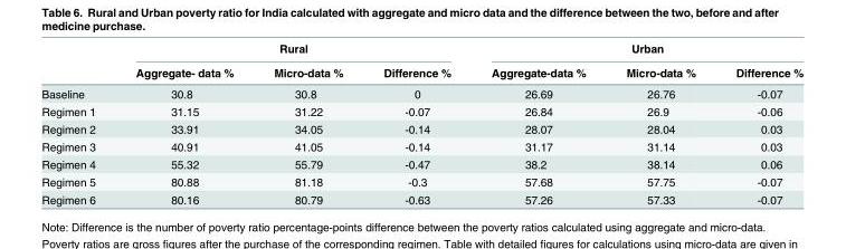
<table><thead><tr><td rowspan="2"></td><td colspan="3">Rural</td><td colspan="3">Urban</td></tr><tr><td>Aggregate- data %</td><td>Micro-data %</td><td>Difference %</td><td>Aggregate-data %</td><td>Micro-data %</td><td>Difference %</td></tr></thead><tbody><tr><td>Baseline</td><td>30.8</td><td>30.8</td><td>0</td><td>26.69</td><td>26.76</td><td>-0.07</td></tr><tr><td>Regimen 1</td><td>31.15</td><td>31.22</td><td>-0.07</td><td>26.84</td><td>26.9</td><td>-0.06</td></tr><tr><td>Regimen 2</td><td>33.91</td><td>34.05</td><td>-0.14</td><td>28.07</td><td>28.04</td><td>0.03</td></tr><tr><td>Regimen 3</td><td>40.91</td><td>41.05</td><td>-0.14</td><td>31.17</td><td>31.14</td><td>0.03</td></tr><tr><td>Regimen 4</td><td>55.32</td><td>55.79</td><td>-0.47</td><td>38.2</td><td>38.14</td><td>0.06</td></tr><tr><td>Regimen 5</td><td>80.88</td><td>81.18</td><td>-0.3</td><td>57.68</td><td>57.75</td><td>-0.07</td></tr><tr><td>Regimen 6</td><td>80.16</td><td>80.79</td><td>-0.63</td><td>57.26</td><td>57.33</td><td>-0.07</td></tr></tbody></table>